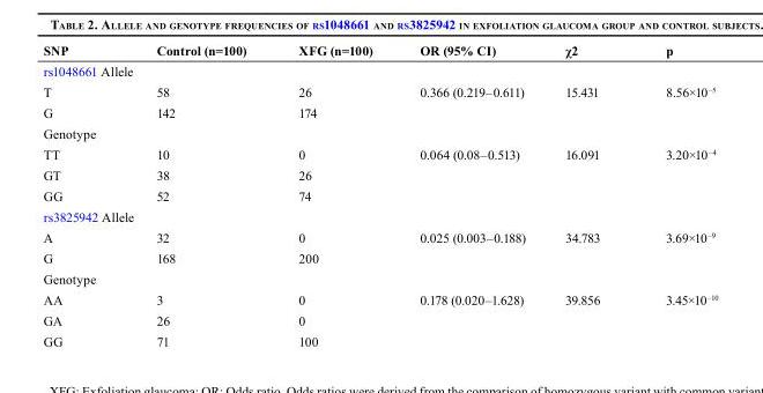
<table><thead><tr><td>SNP</td><td>Control (n=100)</td><td>XFG (n=100)</td><td>OR (95% CI)</td><td>χ2</td><td>p</td></tr></thead><tbody><tr><td colspan="6">rs1048661 Allele</td></tr><tr><td>T</td><td>58</td><td>26</td><td>0.366 (0.219–0.611)</td><td>15.431</td><td>8.56×10<sup>–5</sup></td></tr><tr><td>G</td><td>142</td><td>174</td><td></td><td></td><td></td></tr><tr><td colspan="6">Genotype</td></tr><tr><td>TT</td><td>10</td><td>0</td><td>0.064 (0.08–0.513)</td><td>16.091</td><td>3.20×10<sup>–4</sup></td></tr><tr><td>GT</td><td>38</td><td>26</td><td></td><td></td><td></td></tr><tr><td>GG</td><td>52</td><td>74</td><td></td><td></td><td></td></tr><tr><td colspan="6">rs3825942 Allele</td></tr><tr><td>A</td><td>32</td><td>0</td><td>0.025 (0.003–0.188)</td><td>34.783</td><td>3.69×10<sup>–9</sup></td></tr><tr><td>G</td><td>168</td><td>200</td><td></td><td></td><td></td></tr><tr><td colspan="6">Genotype</td></tr><tr><td>AA</td><td>3</td><td>0</td><td>0.178 (0.020–1.628)</td><td>39.856</td><td>3.45×10<sup>–10</sup></td></tr><tr><td>GA</td><td>26</td><td>0</td><td></td><td></td><td></td></tr><tr><td>GG</td><td>71</td><td>100</td><td></td><td></td><td></td></tr></tbody></table>